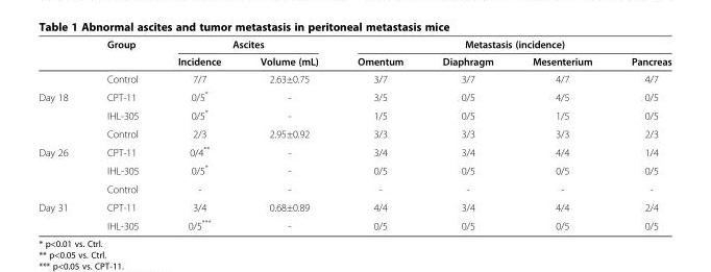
<table><thead><tr><td rowspan="2"></td><td rowspan="2">Group</td><td colspan="2">Ascites</td><td colspan="4">Metastasis (incidence)</td></tr><tr><td>Incidence</td><td>Volume (mL)</td><td>Omentum</td><td>Diaphragm</td><td>Mesenterium</td><td>Pancreas</td></tr></thead><tbody><tr><td></td><td>Control</td><td>7/7</td><td>2.63±0.75</td><td>3/7</td><td>3/7</td><td>4/7</td><td>4/7</td></tr><tr><td rowspan="3">Day 18</td><td>CPT-11</td><td>0/5*</td><td>-</td><td>3/5</td><td>0/5</td><td>4/5</td><td>0/5</td></tr><tr><td>IHL-305</td><td>0/5*</td><td>-</td><td>1/5</td><td>0/5</td><td>1/5</td><td>0/5</td></tr><tr><td>Control</td><td>2/3</td><td>2.95±0.92</td><td>3/3</td><td>3/3</td><td>3/3</td><td>2/3</td></tr><tr><td rowspan="3">Day 26</td><td>CPT-11</td><td>0/4**</td><td>-</td><td>3/4</td><td>3/4</td><td>4/4</td><td>1/4</td></tr><tr><td>IHL-305</td><td>0/5*</td><td>-</td><td>0/5</td><td>0/5</td><td>0/5</td><td>0/5</td></tr><tr><td>Control</td><td>-</td><td>-</td><td>-</td><td>-</td><td>-</td><td>-</td></tr><tr><td rowspan="2">Day 31</td><td>CPT-11</td><td>3/4</td><td>0.68±0.89</td><td>4/4</td><td>3/4</td><td>4/4</td><td>2/4</td></tr><tr><td>IHL-305</td><td>0/5***</td><td>-</td><td>0/5</td><td>0/5</td><td>0/5</td><td>0/5</td></tr></tbody></table>